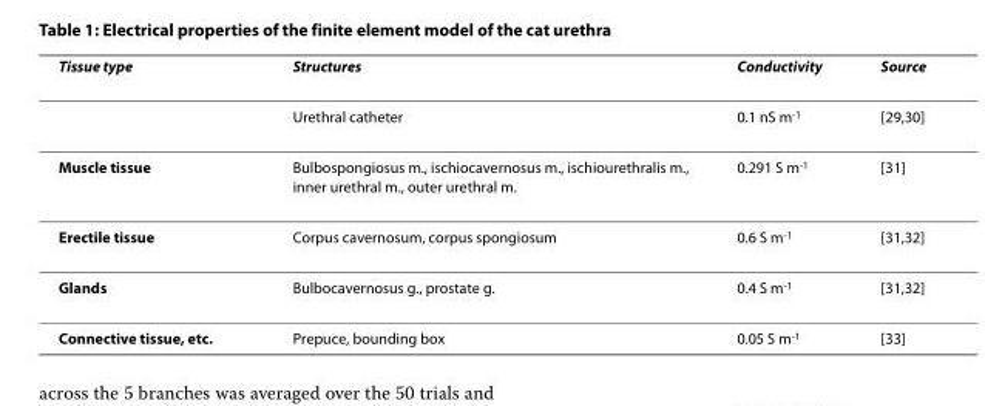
<table><thead><tr><td>Tissue type</td><td>Structures</td><td>Conductivity</td><td>Source</td></tr></thead><tbody><tr><td></td><td>Urethral catheter</td><td>0.1 nS m<sup>-1</sup></td><td>[29,30]</td></tr><tr><td>Muscle tissue</td><td>Bulbospongiosus m., ischiocavernosus m., ischiourethralis m., inner urethral m., outer urethral m.</td><td>0.291 S m<sup>-1</sup></td><td>[31]</td></tr><tr><td>Erectile tissue</td><td>Corpus cavernosum, corpus spongiosum</td><td>0.6 S m<sup>-1</sup></td><td>[31,32]</td></tr><tr><td>Glands</td><td>Bulbocavernosus g., prostate g.</td><td>0.4 S m<sup>-1</sup></td><td>[31,32]</td></tr><tr><td>Connective tissue, etc.</td><td>Prepuce, bounding box</td><td>0.05 S m<sup>-1</sup></td><td>[33]</td></tr></tbody></table>